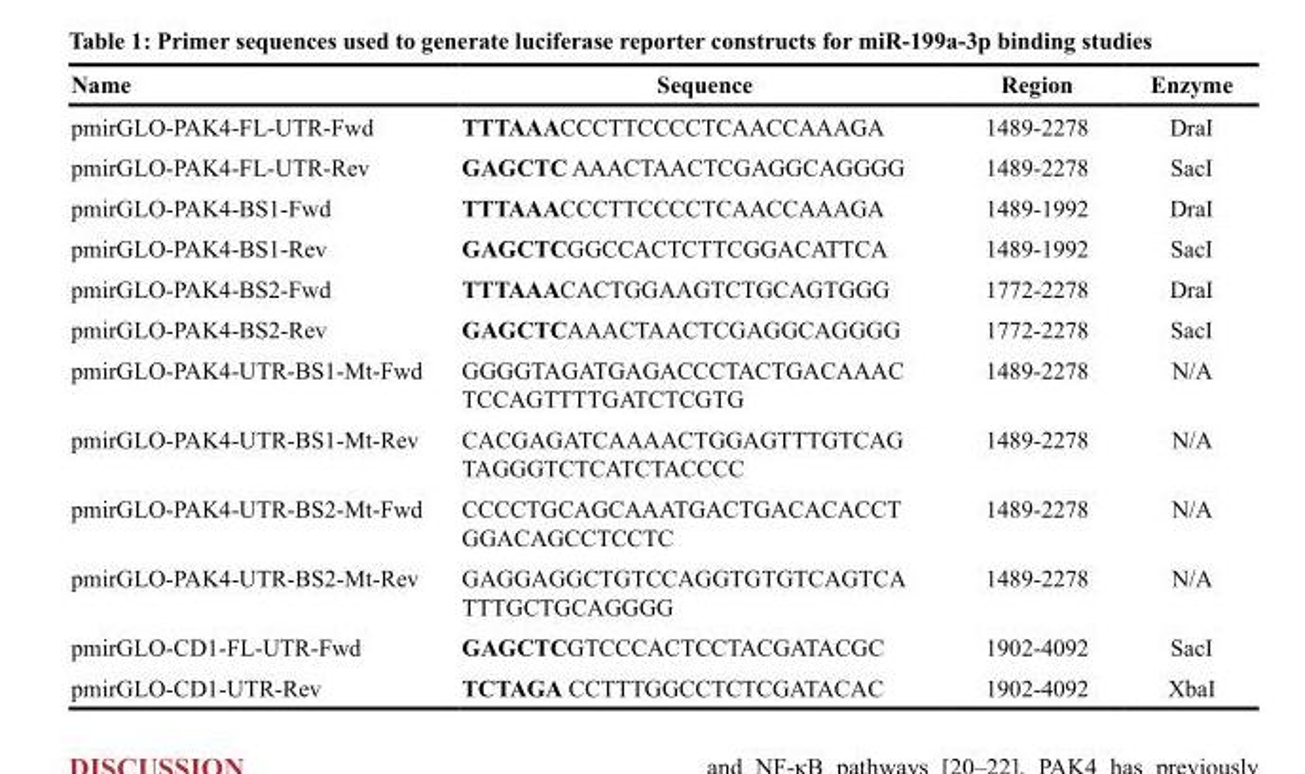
<table><thead><tr><td>Name</td><td>Sequence</td><td>Region</td><td>Enzyme</td></tr></thead><tbody><tr><td>pmirGLO-PAK4-FL-UTR-Fwd</td><td>TTTAAACCCTTCCCCTCAACCAAAGA</td><td>1489-2278</td><td>DraI</td></tr><tr><td>pmirGLO-PAK4-FL-UTR-Rev</td><td>GAGCTC AAACTAACTCGAGGCAGGGG</td><td>1489-2278</td><td>SacI</td></tr><tr><td>pmirGLO-PAK4-BS1-Fwd</td><td>TTTAAACCCTTCCCCTCAACCAAAGA</td><td>1489-1992</td><td>DraI</td></tr><tr><td>pmirGLO-PAK4-BS1-Rev</td><td>GAGCTCGGCCACTCTTCGGACATTCA</td><td>1489-1992</td><td>SacI</td></tr><tr><td>pmirGLO-PAK4-BS2-Fwd</td><td>TTTAAACACTGGAAGTCTGCAGTGGG</td><td>1772-2278</td><td>DraI</td></tr><tr><td>pmirGLO-PAK4-BS2-Rev</td><td>GAGCTCAAACTAACTCGAGGCAGGGG</td><td>1772-2278</td><td>SacI</td></tr><tr><td>pmirGLO-PAK4-UTR-BS1-Mt-Fwd</td><td>GGGGTAGATGAGACCCTACTGACAAAC TCCAGTTTTGATCTCGTG</td><td>1489-2278</td><td>N/A</td></tr><tr><td>pmirGLO-PAK4-UTR-BS1-Mt-Rev</td><td>CACGAGATCAAAACTGGAGTTTGTCAG TAGGGTCTCATCTACCCC</td><td>1489-2278</td><td>N/A</td></tr><tr><td>pmirGLO-PAK4-UTR-BS2-Mt-Fwd</td><td>CCCCTGCAGCAAATGACTGACACACCT GGACAGCCTCCTC</td><td>1489-2278</td><td>N/A</td></tr><tr><td>pmirGLO-PAK4-UTR-BS2-Mt-Rev</td><td>GAGGAGGCTGTCCAGGTGTGTCAGTCA TTTGCTGCAGGGG</td><td>1489-2278</td><td>N/A</td></tr><tr><td>pmirGLO-CD1-FL-UTR-Fwd</td><td>GAGCTCGTCCCACTCCTACGATACGC</td><td>1902-4092</td><td>SacI</td></tr><tr><td>pmirGLO-CD1-UTR-Rev</td><td>TCTAGA CCTTTGGCCTCTCGATACAC</td><td>1902-4092</td><td>XbaI</td></tr></tbody></table>